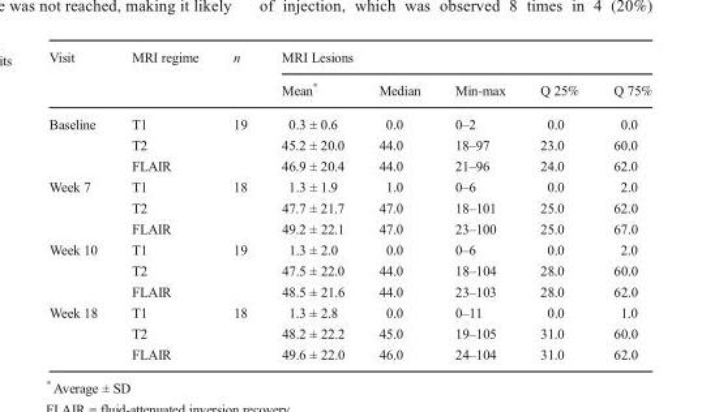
<table><thead><tr><td rowspan="2">Visit</td><td rowspan="2">MRI regime</td><td rowspan="2">n</td><td colspan="5">MRI Lesions</td></tr><tr><td>Mean*</td><td>Median</td><td>Min-max</td><td>Q 25%</td><td>Q 75%</td></tr></thead><tbody><tr><td rowspan="3">Baseline</td><td>T1</td><td rowspan="3">19</td><td>0.3 ± 0.6</td><td>0.0</td><td>0–2</td><td>0.0</td><td>0.0</td></tr><tr><td>T2</td><td>45.2 ± 20.0</td><td>44.0</td><td>18–97</td><td>23.0</td><td>60.0</td></tr><tr><td>FLAIR</td><td>46.9 ± 20.4</td><td>44.0</td><td>21–96</td><td>24.0</td><td>62.0</td></tr><tr><td rowspan="3">Week 7</td><td>T1</td><td rowspan="3">18</td><td>1.3 ± 1.9</td><td>1.0</td><td>0–6</td><td>0.0</td><td>2.0</td></tr><tr><td>T2</td><td>47.7 ± 21.7</td><td>47.0</td><td>18–101</td><td>25.0</td><td>62.0</td></tr><tr><td>FLAIR</td><td>49.2 ± 22.1</td><td>47.0</td><td>23–100</td><td>25.0</td><td>67.0</td></tr><tr><td rowspan="3">Week 10</td><td>T1</td><td rowspan="3">19</td><td>1.3 ± 2.0</td><td>0.0</td><td>0–6</td><td>0.0</td><td>2.0</td></tr><tr><td>T2</td><td>47.5 ± 22.0</td><td>44.0</td><td>18–104</td><td>28.0</td><td>60.0</td></tr><tr><td>FLAIR</td><td>48.5 ± 21.6</td><td>44.0</td><td>23–103</td><td>28.0</td><td>62.0</td></tr><tr><td rowspan="3">Week 18</td><td>T1</td><td rowspan="3">18</td><td>1.3 ± 2.8</td><td>0.0</td><td>0–11</td><td>0.0</td><td>1.0</td></tr><tr><td>T2</td><td>48.2 ± 22.2</td><td>45.0</td><td>19–105</td><td>31.0</td><td>60.0</td></tr><tr><td>FLAIR</td><td>49.6 ± 22.0</td><td>46.0</td><td>24–104</td><td>31.0</td><td>62.0</td></tr></tbody></table>